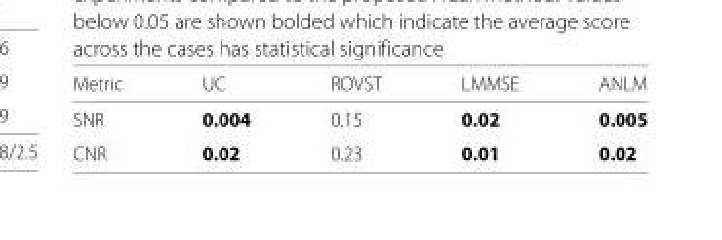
<table><thead><tr><td>Metric</td><td>UC</td><td>ROVST</td><td>LMMSE</td><td>ANLM</td></tr></thead><tbody><tr><td>SNR</td><td>0.004</td><td>0.15</td><td>0.02</td><td>0.005</td></tr><tr><td>CNR</td><td>0.02</td><td>0.23</td><td>0.01</td><td>0.02</td></tr></tbody></table>